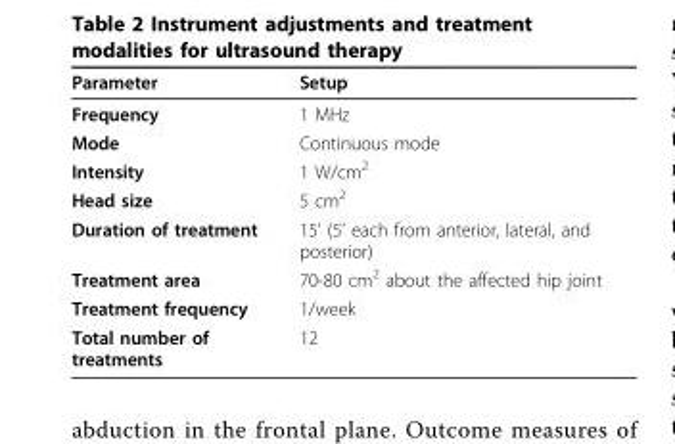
<table><thead><tr><td>Parameter</td><td>Setup</td></tr></thead><tbody><tr><td>Frequency</td><td>1 MHz</td></tr><tr><td>Mode</td><td>Continuous mode</td></tr><tr><td>Intensity</td><td>1 W/cm<sup>2</sup></td></tr><tr><td>Head size</td><td>5 cm<sup>2</sup></td></tr><tr><td>Duration of treatment</td><td>15’ (5’ each from anterior, lateral, and posterior)</td></tr><tr><td>Treatment area</td><td>70-80 cm<sup>2</sup> about the affected hip joint</td></tr><tr><td>Treatment frequency</td><td>1/week</td></tr><tr><td>Total number of treatments</td><td>12</td></tr></tbody></table>